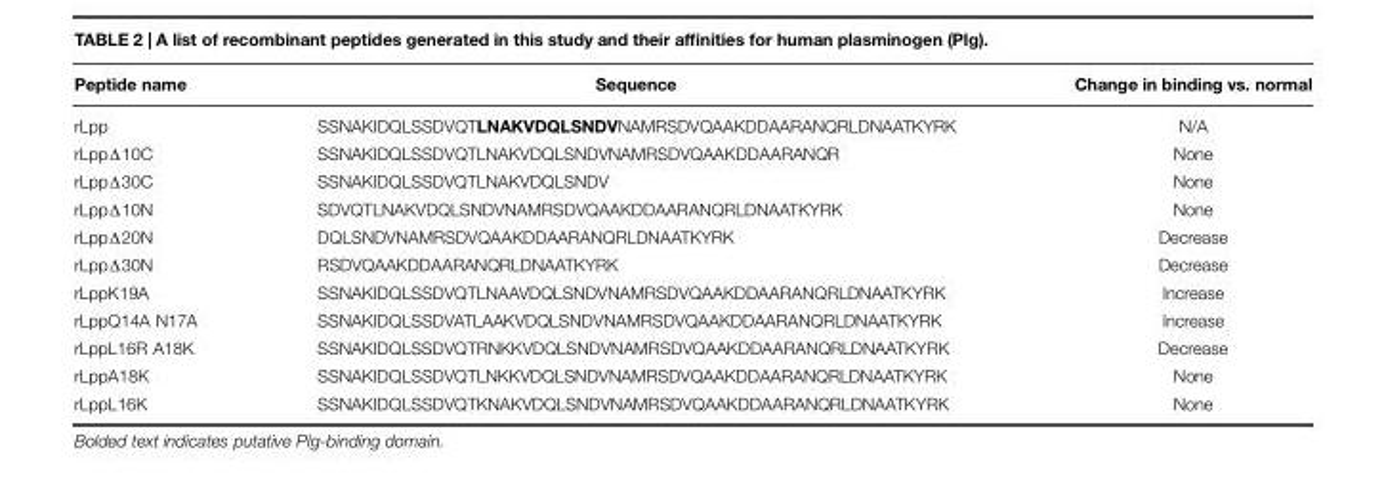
<table><thead><tr><td>Peptide name</td><td>Sequence</td><td>Change in binding vs. normal</td></tr></thead><tbody><tr><td>rLpp</td><td>SSNAKIDQLSSDVQTLNAKVDQLSNDVNAMRSDVQAAKDDAARANQRLDNAATKYRK</td><td>N/A</td></tr><tr><td>rLppΔ10C</td><td>SSNAKIDQLSSDVQTLNAKVDQLSNDVNAMRSDVQAAKDDAARANQR</td><td>None</td></tr><tr><td>rLppΔ30C</td><td>SSNAKIDQLSSDVQTLNAKVDQLSNDV</td><td>None</td></tr><tr><td>rLppΔ10N</td><td>SDVQTLNAKVDQLSNDVNAMRSDVQAAKDDAARANQRLDNAATKYRK</td><td>None</td></tr><tr><td>rLppΔ20N</td><td>DQLSNDVNAMRSDVQAAKDDAARANQRLDNAATKYRK</td><td>Decrease</td></tr><tr><td>rLppΔ30N</td><td>RSDVQAAKDDAARANQRLDNAATKYRK</td><td>Decrease</td></tr><tr><td>rLppK19A</td><td>SSNAKIDQLSSDVQTLNAAVDQLSNDVNAMRSDVQAAKDDAARANQRLDNAATKYRK</td><td>Increase</td></tr><tr><td>rLppQ14A N17A</td><td>SSNAKIDQLSSDVATLAAKVDQLSNDVNAMRSDVQAAKDDAARANQRLDNAATKYRK</td><td>Increase</td></tr><tr><td>rLppL16R A18K</td><td>SSNAKIDQLSSDVQTRNKKVDQLSNDVNAMRSDVQAAKDDAARANQRLDNAATKYRK</td><td>Decrease</td></tr><tr><td>rLppA18K</td><td>SSNAKIDQLSSDVQTLNKKVDQLSNDVNAMRSDVQAAKDDAARANQRLDNAATKYRK</td><td>None</td></tr><tr><td>rLppL16K</td><td>SSNAKIDQLSSDVQTKNAKVDQLSNDVNAMRSDVQAAKDDAARANQRLDNAATKYRK</td><td>None</td></tr></tbody></table>